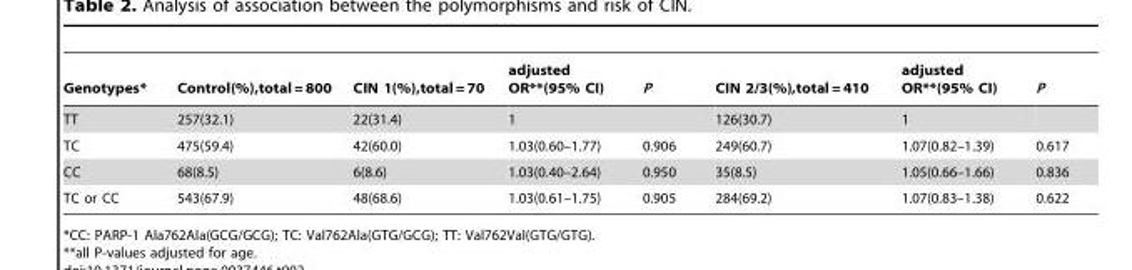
<table><thead><tr><td>Genotypes*</td><td>Control(%),total = 800</td><td>CIN 1(%),total = 70</td><td>adjusted OR**(95% CI)</td><td>P</td><td>CIN 2/3(%),total = 410</td><td>adjusted OR**(95% CI)</td><td>P</td></tr></thead><tbody><tr><td>TT</td><td>257(32.1)</td><td>22(31.4)</td><td>1</td><td></td><td>126(30.7)</td><td>1</td><td></td></tr><tr><td>TC</td><td>475(59.4)</td><td>42(60.0)</td><td>1.03(0.60–1.77)</td><td>0.906</td><td>249(60.7)</td><td>1.07(0.82–1.39)</td><td>0.617</td></tr><tr><td>CC</td><td>68(8.5)</td><td>6(8.6)</td><td>1.03(0.40–2.64)</td><td>0.950</td><td>35(8.5)</td><td>1.05(0.66–1.66)</td><td>0.836</td></tr><tr><td>TC or CC</td><td>543(67.9)</td><td>48(68.6)</td><td>1.03(0.61–1.75)</td><td>0.905</td><td>284(69.2)</td><td>1.07(0.83–1.38)</td><td>0.622</td></tr></tbody></table>